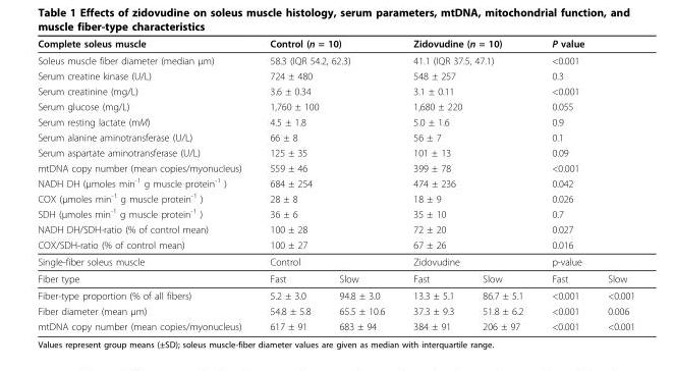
<table><thead><tr><td>Complete soleus muscle</td><td colspan="2">Control (n = 10)</td><td colspan="2">Zidovudine (n = 10)</td><td colspan="2">P value</td></tr></thead><tbody><tr><td>Soleus muscle fiber diameter (median μm)</td><td colspan="2">58.3 (IQR 54.2, 62.3)</td><td colspan="2">41.1 (IQR 37.5, 47.1)</td><td colspan="2">&lt;0.001</td></tr><tr><td>Serum creatine kinase (U/L)</td><td colspan="2">724 ± 480</td><td colspan="2">548 ± 257</td><td colspan="2">0.3</td></tr><tr><td>Serum creatinine (mg/L)</td><td colspan="2">3.6 ± 0.34</td><td colspan="2">3.1 ± 0.11</td><td colspan="2">&lt;0.001</td></tr><tr><td>Serum glucose (mg/L)</td><td colspan="2">1,760 ± 100</td><td colspan="2">1,680 ± 220</td><td colspan="2">0.055</td></tr><tr><td>Serum resting lactate (mM)</td><td colspan="2">4.5 ± 1.8</td><td colspan="2">5.0 ± 1.6</td><td colspan="2">0.9</td></tr><tr><td>Serum alanine aminotransferase (U/L)</td><td colspan="2">66 ± 8</td><td colspan="2">56 ± 7</td><td colspan="2">0.1</td></tr><tr><td>Serum aspartate aminotransferase (U/L)</td><td colspan="2">125 ± 35</td><td colspan="2">101 ± 13</td><td colspan="2">0.09</td></tr><tr><td>mtDNA copy number (mean copies/myonucleus)</td><td colspan="2">559 ± 46</td><td colspan="2">399 ± 78</td><td colspan="2">&lt;0.001</td></tr><tr><td>NADH DH (μmoles min<sup>-1</sup> g muscle protein<sup>-1</sup> )</td><td colspan="2">684 ± 254</td><td colspan="2">474 ± 236</td><td colspan="2">0.042</td></tr><tr><td>COX (μmoles min<sup>-1</sup> g muscle protein<sup>-1</sup> )</td><td colspan="2">28 ± 8</td><td colspan="2">18 ± 9</td><td colspan="2">0.026</td></tr><tr><td>SDH (μmoles min<sup>-1</sup> g muscle protein<sup>-1</sup> )</td><td colspan="2">36 ± 6</td><td colspan="2">35 ± 10</td><td colspan="2">0.7</td></tr><tr><td>NADH DH/SDH-ratio (% of control mean)</td><td colspan="2">100 ± 28</td><td colspan="2">72 ± 20</td><td colspan="2">0.027</td></tr><tr><td>COX/SDH-ratio (% of control mean)</td><td colspan="2">100 ± 27</td><td colspan="2">67 ± 26</td><td colspan="2">0.016</td></tr><tr><td>Single-fiber soleus muscle</td><td colspan="2">Control</td><td colspan="2">Zidovudine</td><td colspan="2">p-value</td></tr><tr><td>Fiber type</td><td>Fast</td><td>Slow</td><td>Fast</td><td>Slow</td><td>Fast</td><td>Slow</td></tr><tr><td>Fiber-type proportion (% of all fibers)</td><td>5.2 ± 3.0</td><td>94.8 ± 3.0</td><td>13.3 ± 5.1</td><td>86.7 ± 5.1</td><td>&lt;0.001</td><td>&lt;0.001</td></tr><tr><td>Fiber diameter (mean μm)</td><td>54.8 ± 5.8</td><td>65.5 ± 10.6</td><td>37.3 ± 9.3</td><td>51.8 ± 6.2</td><td>&lt;0.001</td><td>0.006</td></tr><tr><td>mtDNA copy number (mean copies/myonucleus)</td><td>617 ± 91</td><td>683 ± 94</td><td>384 ± 91</td><td>206 ± 97</td><td>&lt;0.001</td><td>&lt;0.001</td></tr></tbody></table>